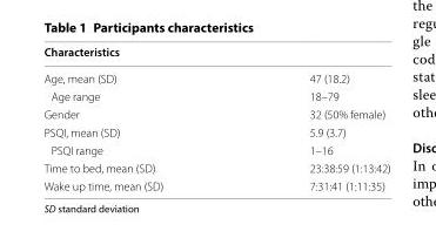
<table><thead><tr><td>Characteristics</td><td></td></tr></thead><tbody><tr><td>Age, mean (SD)</td><td>47 (18.2)</td></tr><tr><td>Age range</td><td>18–79</td></tr><tr><td>Gender</td><td>32 (50% female)</td></tr><tr><td>PSQI, mean (SD)</td><td>5.9 (3.7)</td></tr><tr><td>PSQI range</td><td>1–16</td></tr><tr><td>Time to bed, mean (SD)</td><td>23:38:59 (1:13:42)</td></tr><tr><td>Wake up time, mean (SD)</td><td>7:31:41 (1:11:35)</td></tr></tbody></table>